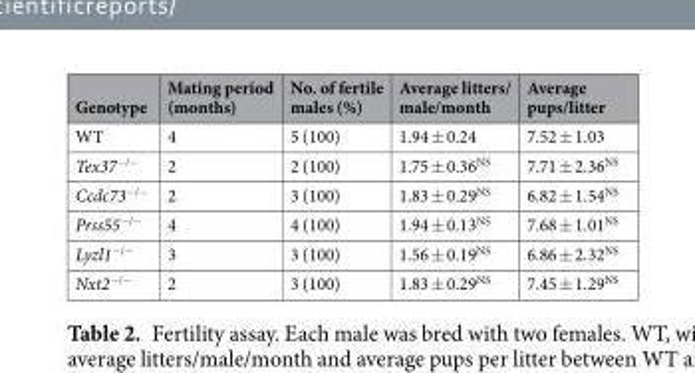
<table><thead><tr><td>Genotype</td><td>Mating period (months)</td><td>No. of fertile males (%)</td><td>Average litters/ male/month</td><td>Average pups/litter</td></tr></thead><tbody><tr><td>WT</td><td>4</td><td>5 (100)</td><td>1.94 ± 0.24</td><td>7.52 ± 1.03</td></tr><tr><td>Tex37<sup>−/−</sup></td><td>2</td><td>2 (100)</td><td>1.75 ± 0.36<sup>NS</sup></td><td>7.71 ± 2.36<sup>NS</sup></td></tr><tr><td>Ccdc73<sup>−/−</sup></td><td>2</td><td>3 (100)</td><td>1.83 ± 0.29<sup>NS</sup></td><td>6.82 ± 1.54<sup>NS</sup></td></tr><tr><td>Prss55<sup>−/−</sup></td><td>4</td><td>4 (100)</td><td>1.94 ± 0.13<sup>NS</sup></td><td>7.68 ± 1.01<sup>NS</sup></td></tr><tr><td>Lyzl1<sup>−/−</sup></td><td>3</td><td>3 (100)</td><td>1.56 ± 0.19<sup>NS</sup></td><td>6.86 ± 2.32<sup>NS</sup></td></tr><tr><td>Nxt2<sup>−/−</sup></td><td>2</td><td>3 (100)</td><td>1.83 ± 0.29<sup>NS</sup></td><td>7.45 ± 1.29<sup>NS</sup></td></tr></tbody></table>